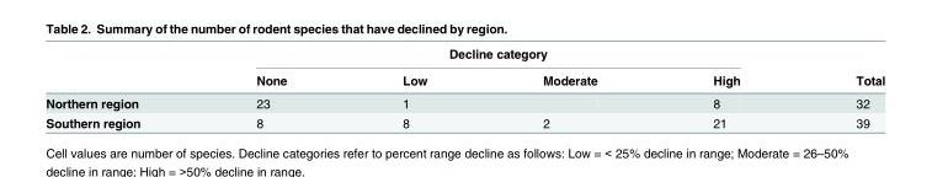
<table><thead><tr><td rowspan="2"></td><td colspan="4">Decline category</td><td rowspan="2">Total</td></tr><tr><td>None</td><td>Low</td><td>Moderate</td><td>High</td></tr></thead><tbody><tr><td>Northern region</td><td>23</td><td>1</td><td></td><td>8</td><td>32</td></tr><tr><td>Southern region</td><td>8</td><td>8</td><td>2</td><td>21</td><td>39</td></tr></tbody></table>